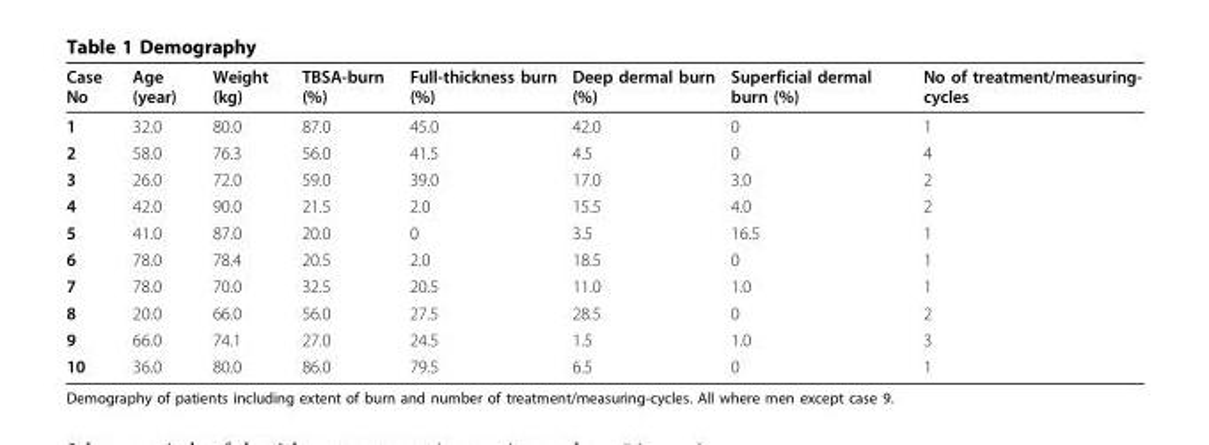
<table><thead><tr><td>Case No</td><td>Age (year)</td><td>Weight (kg)</td><td>TBSA-burn (%)</td><td>Full-thickness burn (%)</td><td>Deep dermal burn (%)</td><td>Superficial dermal burn (%)</td><td>No of treatment/measuring- cycles</td></tr></thead><tbody><tr><td>1</td><td>32.0</td><td>80.0</td><td>87.0</td><td>45.0</td><td>42.0</td><td>0</td><td>1</td></tr><tr><td>2</td><td>58.0</td><td>76.3</td><td>56.0</td><td>41.5</td><td>4.5</td><td>0</td><td>4</td></tr><tr><td>3</td><td>26.0</td><td>72.0</td><td>59.0</td><td>39.0</td><td>17.0</td><td>3.0</td><td>2</td></tr><tr><td>4</td><td>42.0</td><td>90.0</td><td>21.5</td><td>2.0</td><td>15.5</td><td>4.0</td><td>2</td></tr><tr><td>5</td><td>41.0</td><td>87.0</td><td>20.0</td><td>0</td><td>3.5</td><td>16.5</td><td>1</td></tr><tr><td>6</td><td>78.0</td><td>78.4</td><td>20.5</td><td>2.0</td><td>18.5</td><td>0</td><td>1</td></tr><tr><td>7</td><td>78.0</td><td>70.0</td><td>32.5</td><td>20.5</td><td>11.0</td><td>1.0</td><td>1</td></tr><tr><td>8</td><td>20.0</td><td>66.0</td><td>56.0</td><td>27.5</td><td>28.5</td><td>0</td><td>2</td></tr><tr><td>9</td><td>66.0</td><td>74.1</td><td>27.0</td><td>24.5</td><td>1.5</td><td>1.0</td><td>3</td></tr><tr><td>10</td><td>36.0</td><td>80.0</td><td>86.0</td><td>79.5</td><td>6.5</td><td>0</td><td>1</td></tr></tbody></table>